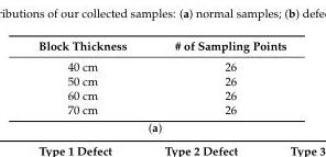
<table><thead><tr><td>Block Thickness</td><td># of Sampling Points</td></tr></thead><tbody><tr><td>40 cm</td><td>26</td></tr><tr><td>50 cm</td><td>26</td></tr><tr><td>60 cm</td><td>26</td></tr><tr><td>70 cm</td><td>26</td></tr></tbody></table>